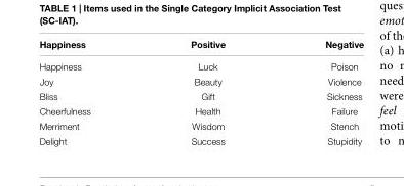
<table><thead><tr><td>Happiness</td><td>Positive</td><td>Negative</td></tr></thead><tbody><tr><td>Happiness</td><td>Luck</td><td>Poison</td></tr><tr><td>Joy</td><td>Beauty</td><td>Violence</td></tr><tr><td>Bliss</td><td>Gift</td><td>Sickness</td></tr><tr><td>Cheerfulness</td><td>Health</td><td>Failure</td></tr><tr><td>Merriment</td><td>Wisdom</td><td>Stench</td></tr><tr><td>Delight</td><td>Success</td><td>Stupidity</td></tr></tbody></table>